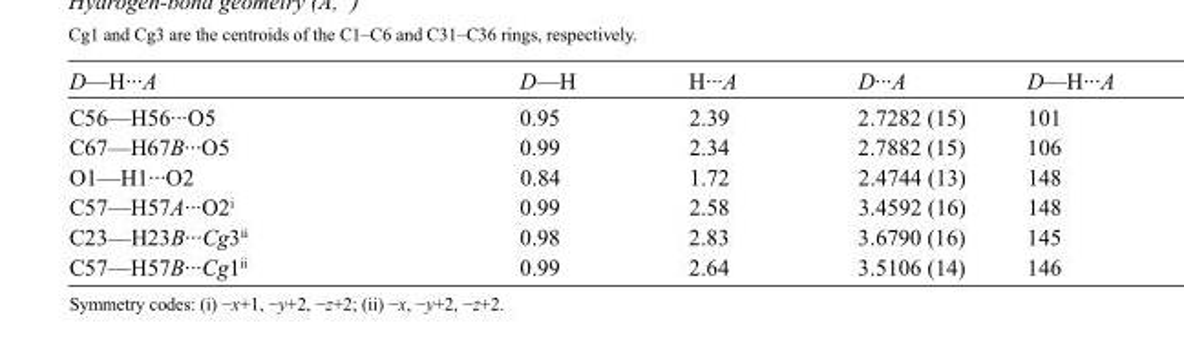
<table><tbody><tr><td>D—H···A</td><td>D—H</td><td>H···A</td><td>D···A</td><td>D—H···A</td></tr><tr><td>C56—H56···O5</td><td>0.95</td><td>2.39</td><td>2.7282 (15)</td><td>101</td></tr><tr><td>C67—H67B···O5</td><td>0.99</td><td>2.34</td><td>2.7882 (15)</td><td>106</td></tr><tr><td>O1—H1···O2</td><td>0.84</td><td>1.72</td><td>2.4744 (13)</td><td>148</td></tr><tr><td>C57—H57A···O2<sup>i</sup></td><td>0.99</td><td>2.58</td><td>3.4592 (16)</td><td>148</td></tr><tr><td>C23—H23B···Cg3<sup>ii</sup></td><td>0.98</td><td>2.83</td><td>3.6790 (16)</td><td>145</td></tr><tr><td>C57—H57B···Cg1<sup>ii</sup></td><td>0.99</td><td>2.64</td><td>3.5106 (14)</td><td>146</td></tr></tbody></table>